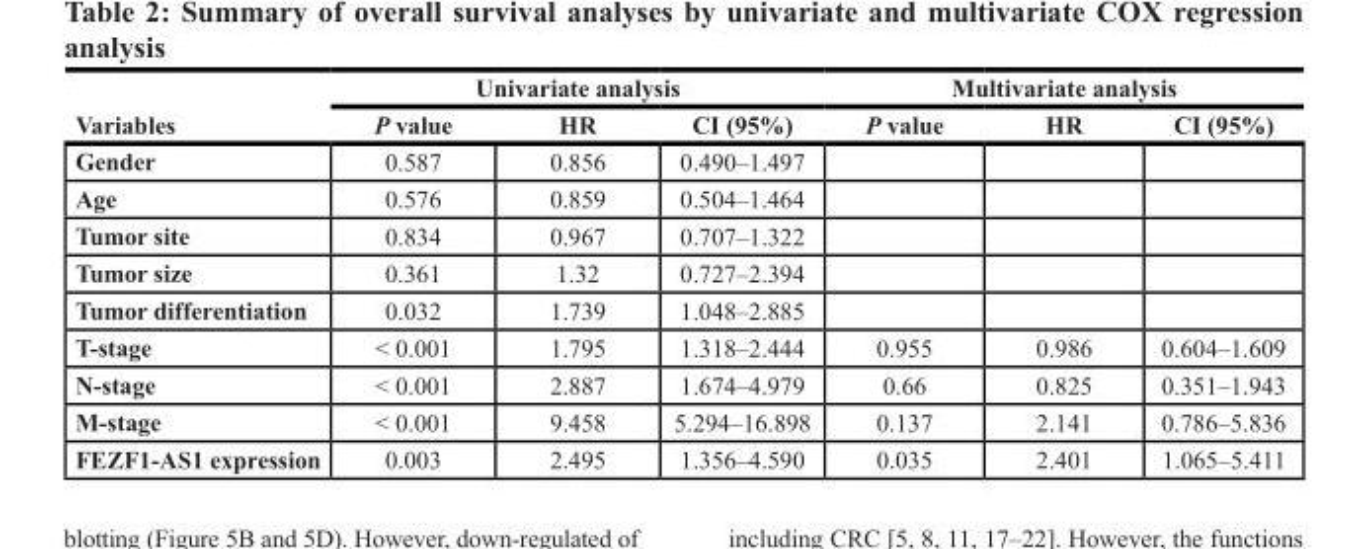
<table><thead><tr><td rowspan="2">Variables</td><td colspan="3">Univariate analysis</td><td colspan="3">Multivariate analysis</td></tr><tr><td>P value</td><td>HR</td><td>CI (95%)</td><td>P value</td><td>HR</td><td>CI (95%)</td></tr></thead><tbody><tr><td>Gender</td><td>0.587</td><td>0.856</td><td>0.490–1.497</td><td></td><td></td><td></td></tr><tr><td>Age</td><td>0.576</td><td>0.859</td><td>0.504–1.464</td><td></td><td></td><td></td></tr><tr><td>Tumor site</td><td>0.834</td><td>0.967</td><td>0.707–1.322</td><td></td><td></td><td></td></tr><tr><td>Tumor size</td><td>0.361</td><td>1.32</td><td>0.727–2.394</td><td></td><td></td><td></td></tr><tr><td>Tumor differentiation</td><td>0.032</td><td>1.739</td><td>1.048–2.885</td><td></td><td></td><td></td></tr><tr><td>T-stage</td><td>&lt; 0.001</td><td>1.795</td><td>1.318–2.444</td><td>0.955</td><td>0.986</td><td>0.604–1.609</td></tr><tr><td>N-stage</td><td>&lt; 0.001</td><td>2.887</td><td>1.674–4.979</td><td>0.66</td><td>0.825</td><td>0.351–1.943</td></tr><tr><td>M-stage</td><td>&lt; 0.001</td><td>9.458</td><td>5.294–16.898</td><td>0.137</td><td>2.141</td><td>0.786–5.836</td></tr><tr><td>FEZF1-AS1 expression</td><td>0.003</td><td>2.495</td><td>1.356–4.590</td><td>0.035</td><td>2.401</td><td>1.065–5.411</td></tr></tbody></table>